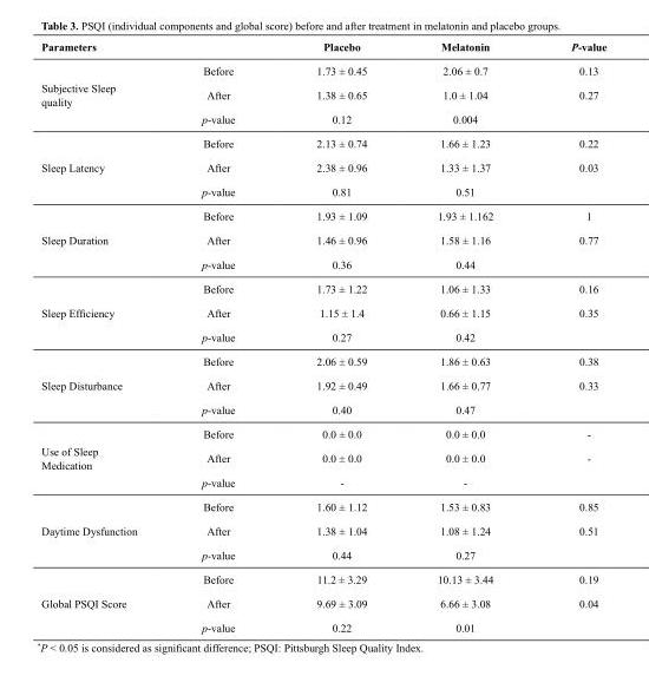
<table><thead><tr><td>Parameters</td><td></td><td>Placebo</td><td>Melatonin</td><td>P-value</td></tr></thead><tbody><tr><td rowspan="3">Subjective Sleep quality</td><td>Before</td><td>1.73 ± 0.45</td><td>2.06 ± 0.7</td><td>0.13</td></tr><tr><td>After</td><td>1.38 ± 0.65</td><td>1.0 ± 1.04</td><td>0.27</td></tr><tr><td>p-value</td><td>0.12</td><td>0.004</td><td></td></tr><tr><td rowspan="3">Sleep Latency</td><td>Before</td><td>2.13 ± 0.74</td><td>1.66 ± 1.23</td><td>0.22</td></tr><tr><td>After</td><td>2.38 ± 0.96</td><td>1.33 ± 1.37</td><td>0.03</td></tr><tr><td>p-value</td><td>0.81</td><td>0.51</td><td></td></tr><tr><td rowspan="3">Sleep Duration</td><td>Before</td><td>1.93 ± 1.09</td><td>1.93 ± 1.162</td><td>1</td></tr><tr><td>After</td><td>1.46 ± 0.96</td><td>1.58 ± 1.16</td><td>0.77</td></tr><tr><td>p-value</td><td>0.36</td><td>0.44</td><td></td></tr><tr><td rowspan="3">Sleep Efficiency</td><td>Before</td><td>1.73 ± 1.22</td><td>1.06 ± 1.33</td><td>0.16</td></tr><tr><td>After</td><td>1.15 ± 1.4</td><td>0.66 ± 1.15</td><td>0.35</td></tr><tr><td>p-value</td><td>0.27</td><td>0.42</td><td></td></tr><tr><td rowspan="3">Sleep Disturbance</td><td>Before</td><td>2.06 ± 0.59</td><td>1.86 ± 0.63</td><td>0.38</td></tr><tr><td>After</td><td>1.92 ± 0.49</td><td>1.66 ± 0.77</td><td>0.33</td></tr><tr><td>p-value</td><td>0.40</td><td>0.47</td><td></td></tr><tr><td rowspan="3">Use of Sleep Medication</td><td>Before</td><td>0.0 ± 0.0</td><td>0.0 ± 0.0</td><td>-</td></tr><tr><td>After</td><td>0.0 ± 0.0</td><td>0.0 ± 0.0</td><td>-</td></tr><tr><td>p-value</td><td>-</td><td>-</td><td></td></tr><tr><td rowspan="3">Daytime Dysfunction</td><td>Before</td><td>1.60 ± 1.12</td><td>1.53 ± 0.83</td><td>0.85</td></tr><tr><td>After</td><td>1.38 ± 1.04</td><td>1.08 ± 1.24</td><td>0.51</td></tr><tr><td>p-value</td><td>0.44</td><td>0.27</td><td></td></tr><tr><td rowspan="3">Global PSQI Score</td><td>Before</td><td>11.2 ± 3.29</td><td>10.13 ± 3.44</td><td>0.19</td></tr><tr><td>After</td><td>9.69 ± 3.09</td><td>6.66 ± 3.08</td><td>0.04</td></tr><tr><td>p-value</td><td>0.22</td><td>0.01</td><td></td></tr></tbody></table>